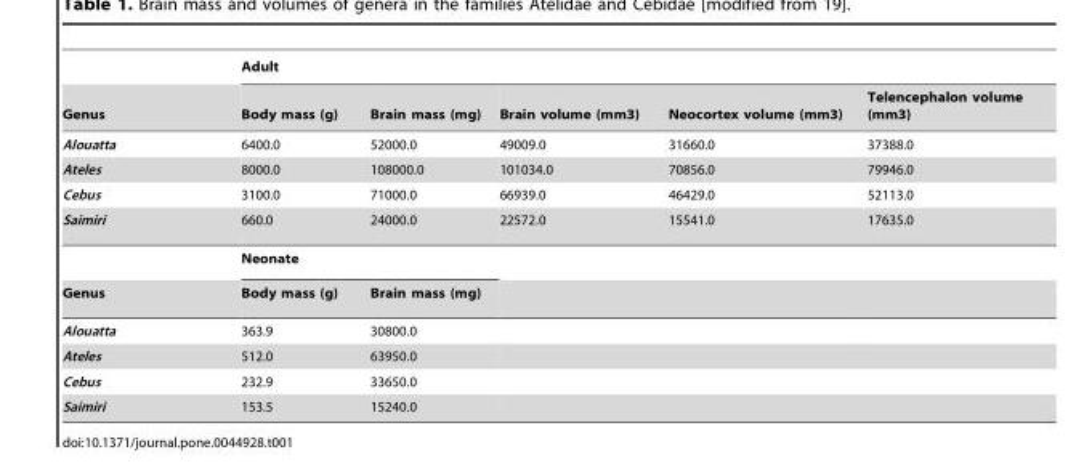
<table><thead><tr><td rowspan="2">Genus</td><td colspan="5">Adult</td></tr><tr><td>Body mass (g)</td><td>Brain mass (mg)</td><td>Brain volume (mm3)</td><td>Neocortex volume (mm3)</td><td>Telencephalon volume (mm3)</td></tr></thead><tbody><tr><td>Alouatta</td><td>6400.0</td><td>52000.0</td><td>49009.0</td><td>31660.0</td><td>37388.0</td></tr><tr><td>Ateles</td><td>8000.0</td><td>108000.0</td><td>101034.0</td><td>70856.0</td><td>79946.0</td></tr><tr><td>Cebus</td><td>3100.0</td><td>71000.0</td><td>66939.0</td><td>46429.0</td><td>52113.0</td></tr><tr><td rowspan="2">Saimiri</td><td>660.0</td><td>24000.0</td><td>22572.0</td><td>15541.0</td><td>17635.0</td></tr><tr><td colspan="2">Neonate</td><td></td><td></td><td></td></tr><tr><td>Genus</td><td>Body mass (g)</td><td>Brain mass (mg)</td><td></td><td></td><td></td></tr><tr><td>Alouatta</td><td>363.9</td><td>30800.0</td><td></td><td></td><td></td></tr><tr><td>Ateles</td><td>512.0</td><td>63950.0</td><td></td><td></td><td></td></tr><tr><td>Cebus</td><td>232.9</td><td>33650.0</td><td></td><td></td><td></td></tr><tr><td>Saimiri</td><td>153.5</td><td>15240.0</td><td></td><td></td><td></td></tr></tbody></table>